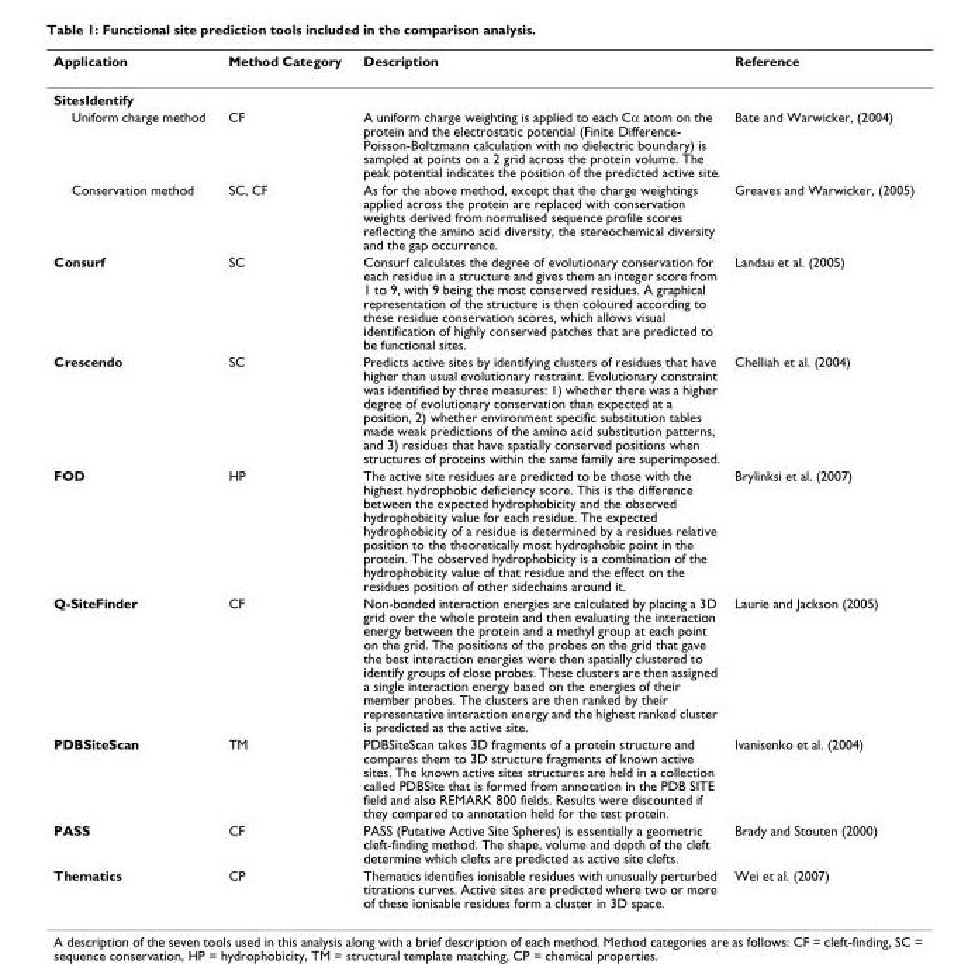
<table><thead><tr><td>Application</td><td>Method Category</td><td>Description</td><td>Reference</td></tr></thead><tbody><tr><td colspan="4">SitesIdentify</td></tr><tr><td>Uniform charge method</td><td>CF</td><td>A uniform charge weighting is applied to each Cα atom on the protein and the electrostatic potential (Finite Difference- Poisson-Boltzmann calculation with no dielectric boundary) is sampled at points on a 2 grid across the protein volume. The peak potential indicates the position of the predicted active site.</td><td>Bate and Warwicker, (2004)</td></tr><tr><td>Conservation method</td><td>SC, CF</td><td>As for the above method, except that the charge weightings applied across the protein are replaced with conservation weights derived from normalised sequence profile scores reflecting the amino acid diversity, the stereochemical diversity and the gap occurrence.</td><td>Greaves and Warwicker, (2005)</td></tr><tr><td>Consurf</td><td>SC</td><td>Consurf calculates the degree of evolutionary conservation for each residue in a structure and gives them an integer score from 1 to 9, with 9 being the most conserved residues. A graphical representation of the structure is then coloured according to these residue conservation scores, which allows visual identification of highly conserved patches that are predicted to be functional sites.</td><td>Landau et al. (2005)</td></tr><tr><td>Crescendo</td><td>SC</td><td>Predicts active sites by identifying clusters of residues that have higher than usual evolutionary restraint. Evolutionary constraint was identified by three measures: 1) whether there was a higher degree of evolutionary conservation than expected at a position, 2) whether environment specific substitution tables made weak predictions of the amino acid substitution patterns, and 3) residues that have spatially conserved positions when structures of proteins within the same family are superimposed.</td><td>Chelliah et al. (2004)</td></tr><tr><td>FOD</td><td>HP</td><td>The active site residues are predicted to be those with the highest hydrophobic deficiency score. This is the difference between the expected hydrophobicity and the observed hydrophobicity value for each residue. The expected hydrophobicity of a residue is determined by a residues relative position to the theoretically most hydrophobic point in the protein. The observed hydrophobicity is a combination of the hydrophobicity value of that residue and the effect on the residues position of other sidechains around it.</td><td>Brylinksi et al. (2007)</td></tr><tr><td>Q-SiteFinder</td><td>CF</td><td>Non-bonded interaction energies are calculated by placing a 3D grid over the whole protein and then evaluating the interaction energy between the protein and a methyl group at each point on the grid. The positions of the probes on the grid that gave the best interaction energies were then spatially clustered to identify groups of close probes. These clusters are then assigned a single interaction energy based on the energies of their member probes. The clusters are then ranked by their representative interaction energy and the highest ranked cluster is predicted as the active site.</td><td>Laurie and Jackson (2005)</td></tr><tr><td>PDBSiteScan</td><td>TM</td><td>PDBSiteScan takes 3D fragments of a protein structure and compares them to 3D structure fragments of known active sites. The known active sites structures are held in a collection called PDBSite that is formed from annotation in the PDB SITE field and also REMARK 800 fields. Results were discounted if they compared to annotation held for the test protein.</td><td>Ivanisenko et al. (2004)</td></tr><tr><td>PASS</td><td>CF</td><td>PASS (Putative Active Site Spheres) is essentially a geometric cleft-finding method. The shape, volume and depth of the cleft determine which clefts are predicted as active site clefts.</td><td>Brady and Stouten (2000)</td></tr><tr><td>Thematics</td><td>CP</td><td>Thematics identifies ionisable residues with unusually perturbed titrations curves. Active sites are predicted where two or more of these ionisable residues form a cluster in 3D space.</td><td>Wei et al. (2007)</td></tr></tbody></table>